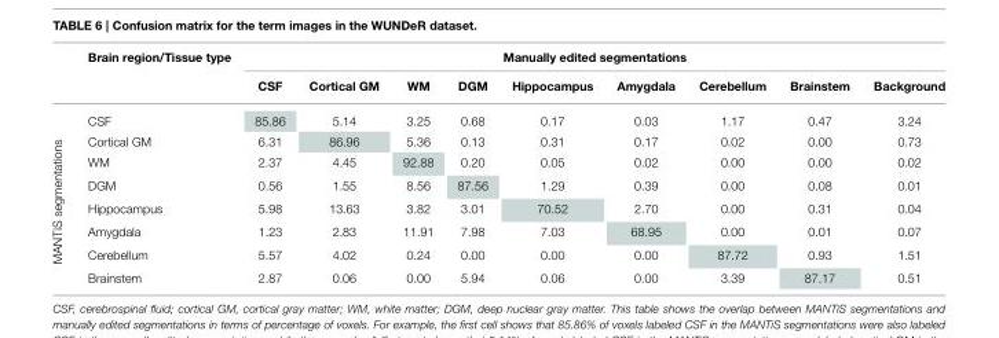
<table><thead><tr><td rowspan="2"></td><td rowspan="2">Brain region/Tissue type</td><td colspan="9">Manually edited segmentations</td></tr><tr><td>CSF</td><td>Cortical GM</td><td>WM</td><td>DGM</td><td>Hippocampus</td><td>Amygdala</td><td>Cerebellum</td><td>Brainstem</td><td>Background</td></tr></thead><tbody><tr><td rowspan="8">MANTiS segmentations</td><td>CSF</td><td>85.86</td><td>5.14</td><td>3.25</td><td>0.68</td><td>0.17</td><td>0.03</td><td>1.17</td><td>0.47</td><td>3.24</td></tr><tr><td>Cortical GM</td><td>6.31</td><td>86.96</td><td>5.36</td><td>0.13</td><td>0.31</td><td>0.17</td><td>0.02</td><td>0.00</td><td>0.73</td></tr><tr><td>WM</td><td>2.37</td><td>4.45</td><td>92.88</td><td>0.20</td><td>0.05</td><td>0.02</td><td>0.00</td><td>0.00</td><td>0.02</td></tr><tr><td>DGM</td><td>0.56</td><td>1.55</td><td>8.56</td><td>87.56</td><td>1.29</td><td>0.39</td><td>0.00</td><td>0.08</td><td>0.01</td></tr><tr><td>Hippocampus</td><td>5.98</td><td>13.63</td><td>3.82</td><td>3.01</td><td>70.52</td><td>2.70</td><td>0.00</td><td>0.31</td><td>0.04</td></tr><tr><td>Amygdala</td><td>1.23</td><td>2.83</td><td>11.91</td><td>7.98</td><td>7.03</td><td>68.95</td><td>0.00</td><td>0.01</td><td>0.07</td></tr><tr><td>Cerebellum</td><td>5.57</td><td>4.02</td><td>0.24</td><td>0.00</td><td>0.00</td><td>0.00</td><td>87.72</td><td>0.93</td><td>1.51</td></tr><tr><td>Brainstem</td><td>2.87</td><td>0.06</td><td>0.00</td><td>5.94</td><td>0.06</td><td>0.00</td><td>3.39</td><td>87.17</td><td>0.51</td></tr></tbody></table>